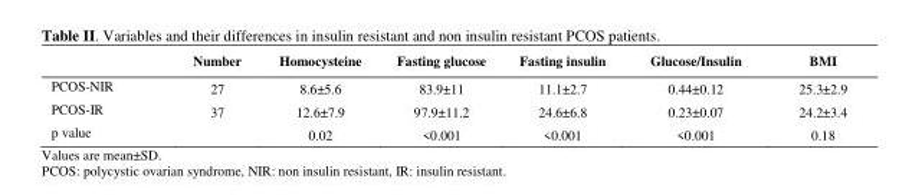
<table><thead><tr><td></td><td>Number</td><td>Homocysteine</td><td>Fasting glucose</td><td>Fasting insulin</td><td>Glucose/Insulin</td><td>BMI</td></tr></thead><tbody><tr><td>PCOS-NIR</td><td>27</td><td>8.6±5.6</td><td>83.9±11</td><td>11.1±2.7</td><td>0.44±0.12</td><td>25.3±2.9</td></tr><tr><td>PCOS-IR</td><td>37</td><td>12.6±7.9</td><td>97.9±11.2</td><td>24.6±6.8</td><td>0.23±0.07</td><td>24.2±3.4</td></tr><tr><td>p value</td><td></td><td>0.02</td><td>&lt;0.001</td><td>&lt;0.001</td><td>&lt;0.001</td><td>0.18</td></tr></tbody></table>